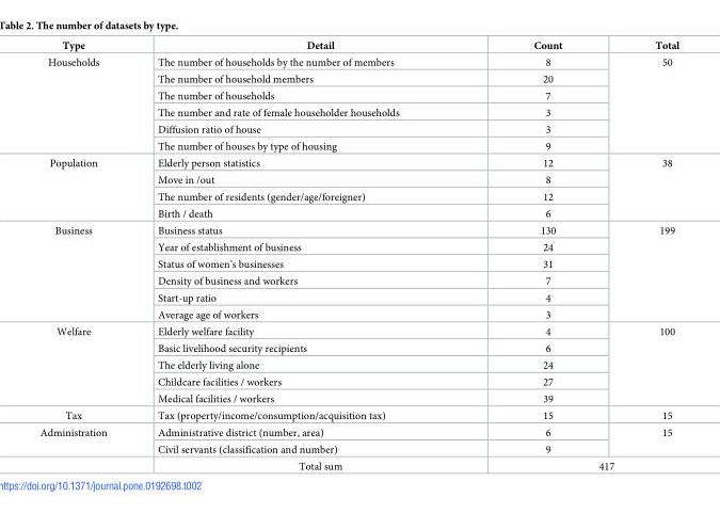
<table><thead><tr><td>Type</td><td>Detail</td><td>Count</td><td>Total</td></tr></thead><tbody><tr><td rowspan="6">Households</td><td>The number of households by the number of members</td><td>8</td><td rowspan="6">50</td></tr><tr><td>The number of household members</td><td>20</td></tr><tr><td>The number of households</td><td>7</td></tr><tr><td>The number and rate of female householder households</td><td>3</td></tr><tr><td>Diffusion ratio of house</td><td>3</td></tr><tr><td>The number of houses by type of housing</td><td>9</td></tr><tr><td rowspan="4">Population</td><td>Elderly person statistics</td><td>12</td><td rowspan="4">38</td></tr><tr><td>Move in /out</td><td>8</td></tr><tr><td>The number of residents (gender/age/foreigner)</td><td>12</td></tr><tr><td>Birth / death</td><td>6</td></tr><tr><td rowspan="6">Business</td><td>Business status</td><td>130</td><td rowspan="6">199</td></tr><tr><td>Year of establishment of business</td><td>24</td></tr><tr><td>Status of women’s businesses</td><td>31</td></tr><tr><td>Density of business and workers</td><td>7</td></tr><tr><td>Start-up ratio</td><td>4</td></tr><tr><td>Average age of workers</td><td>3</td></tr><tr><td rowspan="5">Welfare</td><td>Elderly welfare facility</td><td>4</td><td rowspan="5">100</td></tr><tr><td>Basic livelihood security recipients</td><td>6</td></tr><tr><td>The elderly living alone</td><td>24</td></tr><tr><td>Childcare facilities / workers</td><td>27</td></tr><tr><td>Medical facilities / workers</td><td>39</td></tr><tr><td>Tax</td><td>Tax (property/income/consumption/acquisition tax)</td><td>15</td><td>15</td></tr><tr><td rowspan="3">Administration</td><td>Administrative district (number, area)</td><td>6</td><td rowspan="2">15</td></tr><tr><td>Civil servants (classification and number)</td><td>9</td></tr><tr><td>Total sum</td><td colspan="2">417</td></tr></tbody></table>